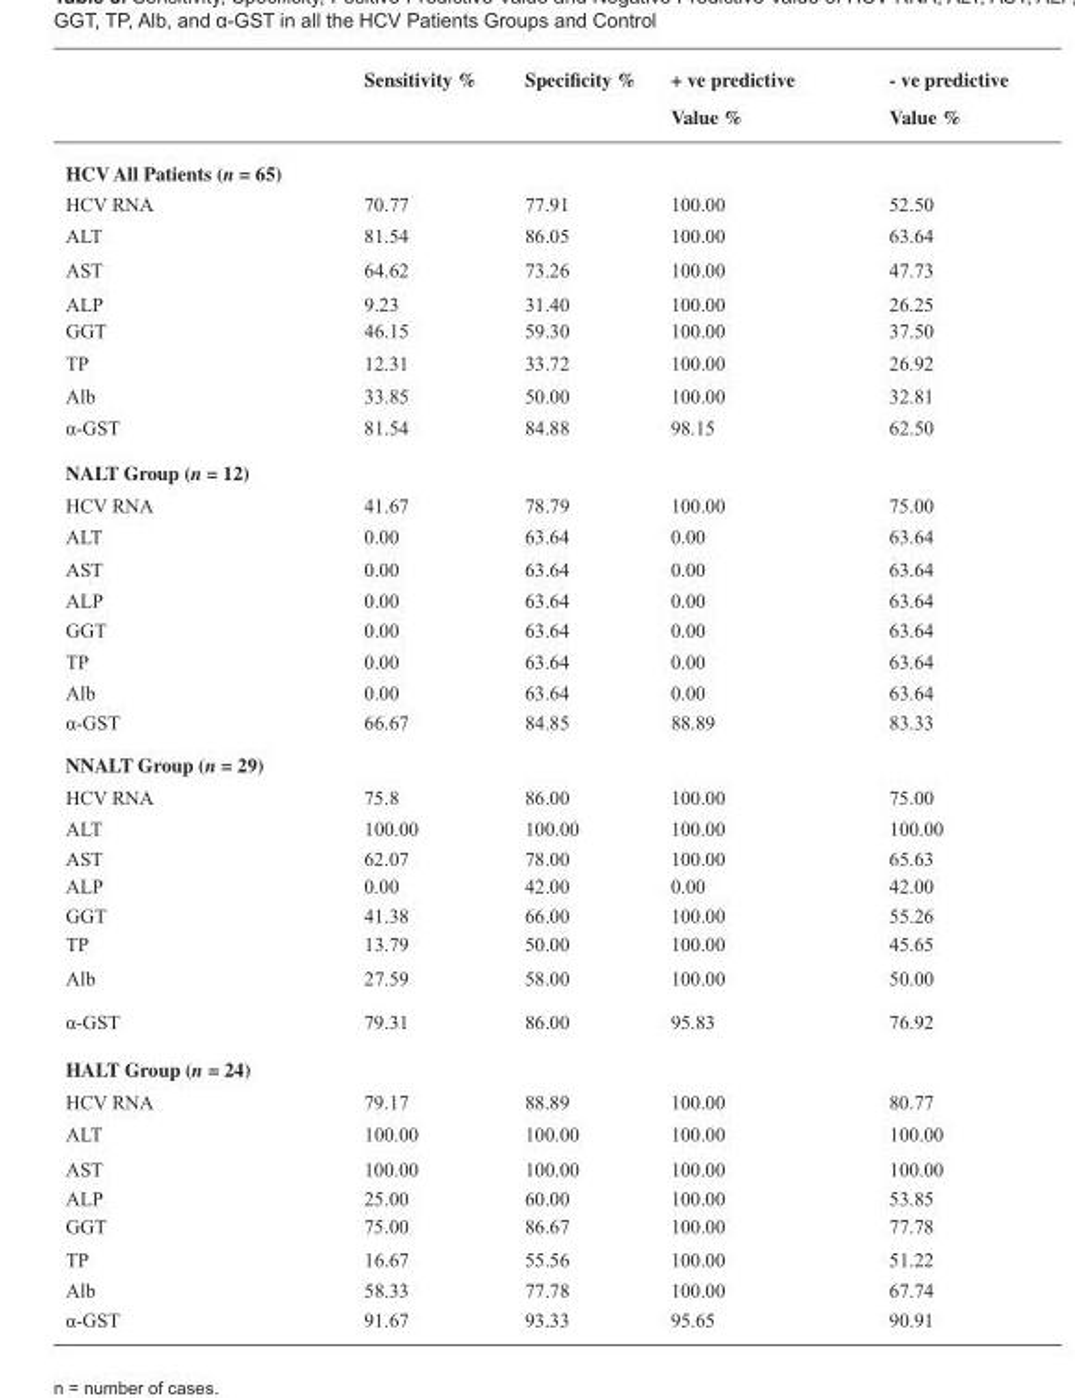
<table><thead><tr><td rowspan="2"></td><td rowspan="2">Sensitivity %</td><td rowspan="2">Specifi city %</td><td rowspan="2">+ ve predictive Value %</td><td rowspan="2">- ve predictive Value %</td></tr><tr></tr></thead><tbody><tr><td colspan="5">HCV All Patients (n = 65)</td></tr><tr><td>HCV RNA</td><td>70.77</td><td>77.91</td><td>100.00</td><td>52.50</td></tr><tr><td>ALT</td><td>81.54</td><td>86.05</td><td>100.00</td><td>63.64</td></tr><tr><td>AST</td><td>64.62</td><td>73.26</td><td>100.00</td><td>47.73</td></tr><tr><td>ALP</td><td>9.23</td><td>31.40</td><td>100.00</td><td>26.25</td></tr><tr><td>GGT</td><td>46.15</td><td>59.30</td><td>100.00</td><td>37.50</td></tr><tr><td>TP</td><td>12.31</td><td>33.72</td><td>100.00</td><td>26.92</td></tr><tr><td>Alb</td><td>33.85</td><td>50.00</td><td>100.00</td><td>32.81</td></tr><tr><td>α-GST</td><td>81.54</td><td>84.88</td><td>98.15</td><td>62.50</td></tr><tr><td colspan="5">NALT Group (n = 12)</td></tr><tr><td>HCV RNA</td><td>41.67</td><td>78.79</td><td>100.00</td><td>75.00</td></tr><tr><td>ALT</td><td>0.00</td><td>63.64</td><td>0.00</td><td>63.64</td></tr><tr><td>AST</td><td>0.00</td><td>63.64</td><td>0.00</td><td>63.64</td></tr><tr><td>ALP</td><td>0.00</td><td>63.64</td><td>0.00</td><td>63.64</td></tr><tr><td>GGT</td><td>0.00</td><td>63.64</td><td>0.00</td><td>63.64</td></tr><tr><td>TP</td><td>0.00</td><td>63.64</td><td>0.00</td><td>63.64</td></tr><tr><td>Alb</td><td>0.00</td><td>63.64</td><td>0.00</td><td>63.64</td></tr><tr><td>α-GST</td><td>66.67</td><td>84.85</td><td>88.89</td><td>83.33</td></tr><tr><td colspan="5">NNALT Group (n = 29)</td></tr><tr><td>HCV RNA</td><td>75.8</td><td>86.00</td><td>100.00</td><td>75.00</td></tr><tr><td>ALT</td><td>100.00</td><td>100.00</td><td>100.00</td><td>100.00</td></tr><tr><td>AST</td><td>62.07</td><td>78.00</td><td>100.00</td><td>65.63</td></tr><tr><td>ALP</td><td>0.00</td><td>42.00</td><td>0.00</td><td>42.00</td></tr><tr><td>GGT</td><td>41.38</td><td>66.00</td><td>100.00</td><td>55.26</td></tr><tr><td>TP</td><td>13.79</td><td>50.00</td><td>100.00</td><td>45.65</td></tr><tr><td>Alb</td><td>27.59</td><td>58.00</td><td>100.00</td><td>50.00</td></tr><tr><td>α-GST</td><td>79.31</td><td>86.00</td><td>95.83</td><td>76.92</td></tr><tr><td colspan="5">HALT Group (n = 24)</td></tr><tr><td>HCV RNA</td><td>79.17</td><td>88.89</td><td>100.00</td><td>80.77</td></tr><tr><td>ALT</td><td>100.00</td><td>100.00</td><td>100.00</td><td>100.00</td></tr><tr><td>AST</td><td>100.00</td><td>100.00</td><td>100.00</td><td>100.00</td></tr><tr><td>ALP</td><td>25.00</td><td>60.00</td><td>100.00</td><td>53.85</td></tr><tr><td>GGT</td><td>75.00</td><td>86.67</td><td>100.00</td><td>77.78</td></tr><tr><td>TP</td><td>16.67</td><td>55.56</td><td>100.00</td><td>51.22</td></tr><tr><td>Alb</td><td>58.33</td><td>77.78</td><td>100.00</td><td>67.74</td></tr><tr><td>α-GST</td><td>91.67</td><td>93.33</td><td>95.65</td><td>90.91</td></tr></tbody></table>